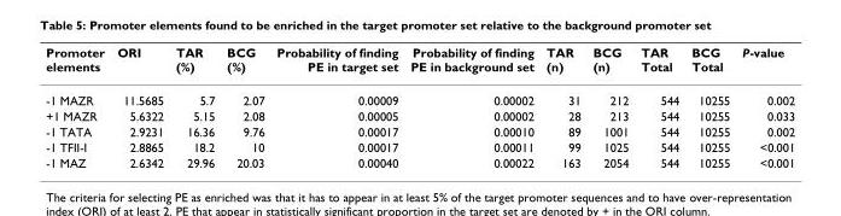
<table><thead><tr><td>Promoter elements</td><td>ORI</td><td>TAR (%)</td><td>BCG (%)</td><td>Probability of finding PE in target set</td><td>Probability of finding PE in background set</td><td>TAR (n)</td><td>BCG (n)</td><td>TAR Total</td><td>BCG Total</td><td>P-value</td></tr></thead><tbody><tr><td>-1 MAZR</td><td>11.5685</td><td>5.7</td><td>2.07</td><td>0.00009</td><td>0.00002</td><td>31</td><td>212</td><td>544</td><td>10255</td><td>0.002</td></tr><tr><td>+1 MAZR</td><td>5.6322</td><td>5.15</td><td>2.08</td><td>0.00005</td><td>0.00002</td><td>28</td><td>213</td><td>544</td><td>10255</td><td>0.033</td></tr><tr><td>-1 TATA</td><td>2.9231</td><td>16.36</td><td>9.76</td><td>0.00017</td><td>0.00010</td><td>89</td><td>1001</td><td>544</td><td>10255</td><td>0.002</td></tr><tr><td>-1 TFII-I</td><td>2.8865</td><td>18.2</td><td>10</td><td>0.00017</td><td>0.00011</td><td>99</td><td>1025</td><td>544</td><td>10255</td><td>&lt;0.001</td></tr><tr><td>-1 MAZ</td><td>2.6342</td><td>29.96</td><td>20.03</td><td>0.00040</td><td>0.00022</td><td>163</td><td>2054</td><td>544</td><td>10255</td><td>&lt;0.001</td></tr></tbody></table>